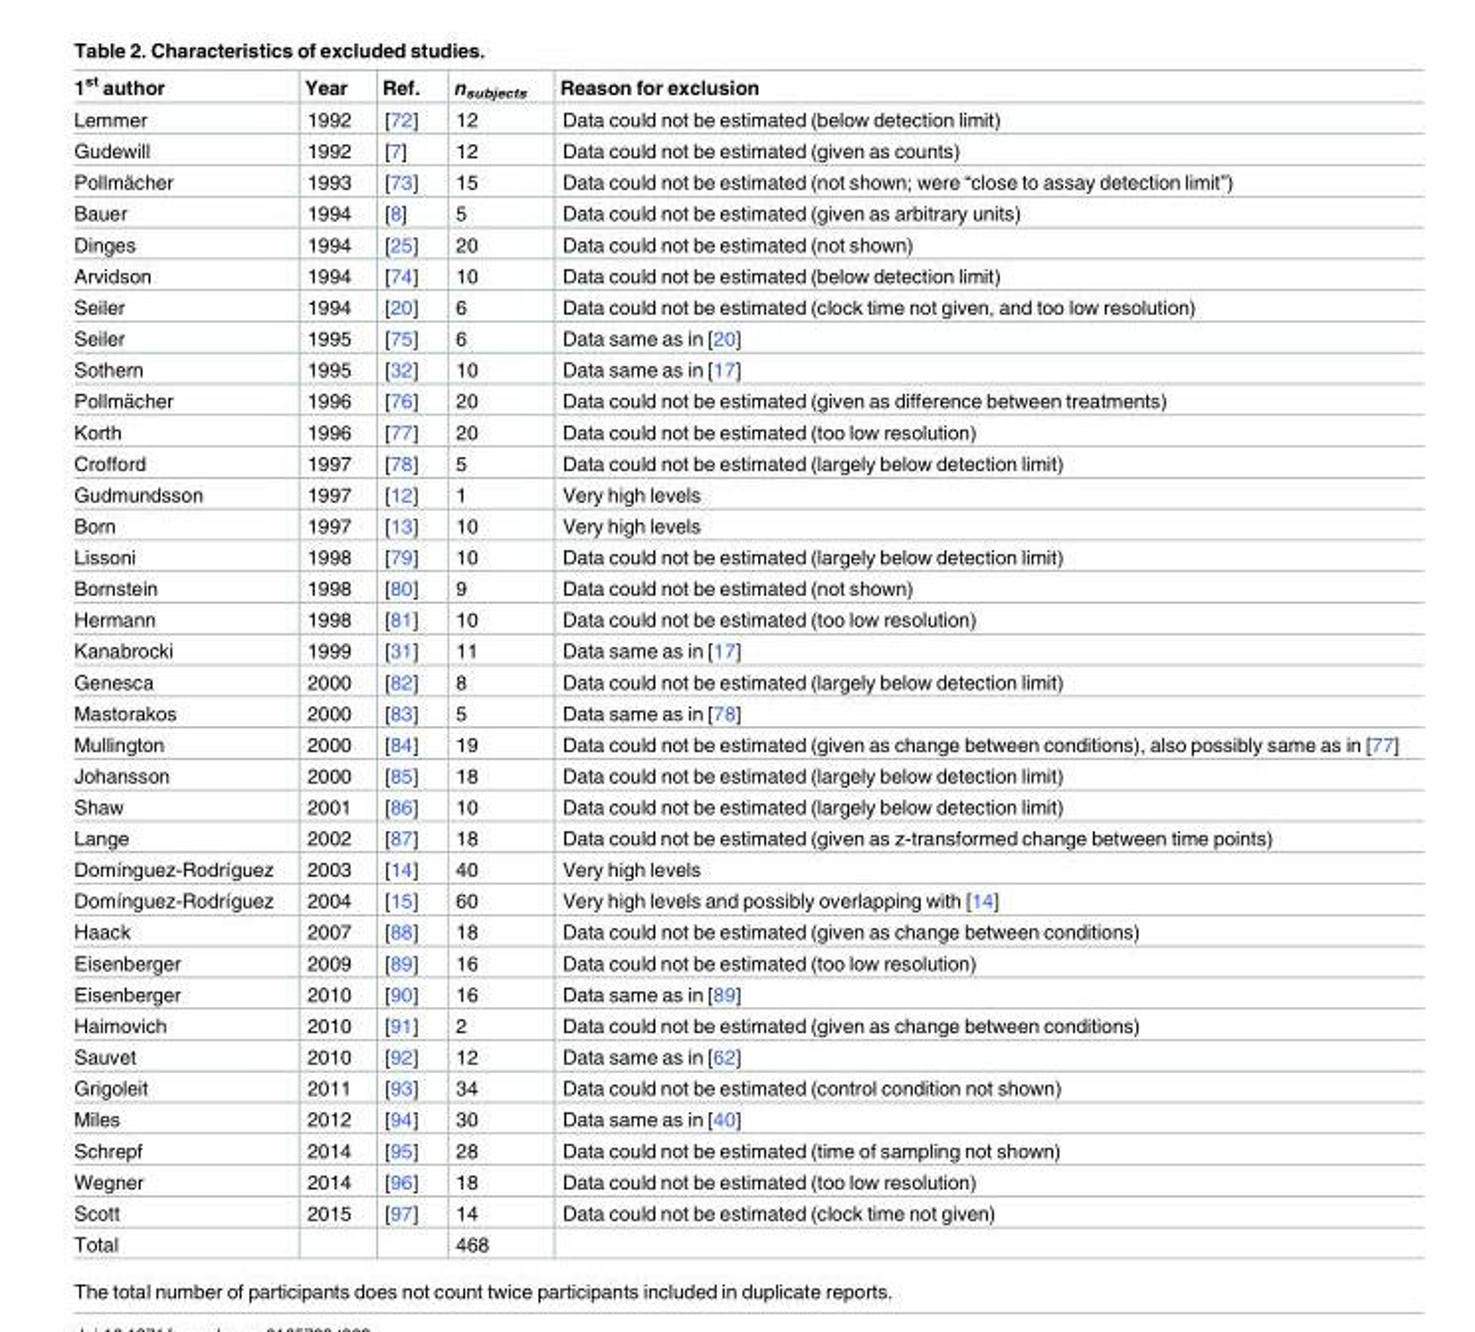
<table><thead><tr><td>1<sup>st</sup> author</td><td>Year</td><td>Ref.</td><td>n<sub>subjects</sub></td><td>Reason for exclusion</td></tr></thead><tbody><tr><td>Lemmer</td><td>1992</td><td>[72]</td><td>12</td><td>Data could not be estimated (below detection limit)</td></tr><tr><td>Gudewill</td><td>1992</td><td>[7]</td><td>12</td><td>Data could not be estimated (given as counts)</td></tr><tr><td>Pollma¨cher</td><td>1993</td><td>[73]</td><td>15</td><td>Data could not be estimated (not shown; were “close to assay detection limit”)</td></tr><tr><td>Bauer</td><td>1994</td><td>[8]</td><td>5</td><td>Data could not be estimated (given as arbitrary units)</td></tr><tr><td>Dinges</td><td>1994</td><td>[25]</td><td>20</td><td>Data could not be estimated (not shown)</td></tr><tr><td>Arvidson</td><td>1994</td><td>[74]</td><td>10</td><td>Data could not be estimated (below detection limit)</td></tr><tr><td>Seiler</td><td>1994</td><td>[20]</td><td>6</td><td>Data could not be estimated (clock time not given, and too low resolution)</td></tr><tr><td>Seiler</td><td>1995</td><td>[75]</td><td>6</td><td>Data same as in [20]</td></tr><tr><td>Sothern</td><td>1995</td><td>[32]</td><td>10</td><td>Data same as in [17]</td></tr><tr><td>Pollma¨cher</td><td>1996</td><td>[76]</td><td>20</td><td>Data could not be estimated (given as difference between treatments)</td></tr><tr><td>Korth</td><td>1996</td><td>[77]</td><td>20</td><td>Data could not be estimated (too low resolution)</td></tr><tr><td>Crofford</td><td>1997</td><td>[78]</td><td>5</td><td>Data could not be estimated (largely below detection limit)</td></tr><tr><td>Gudmundsson</td><td>1997</td><td>[12]</td><td>1</td><td>Very high levels</td></tr><tr><td>Born</td><td>1997</td><td>[13]</td><td>10</td><td>Very high levels</td></tr><tr><td>Lissoni</td><td>1998</td><td>[79]</td><td>10</td><td>Data could not be estimated (largely below detection limit)</td></tr><tr><td>Bornstein</td><td>1998</td><td>[80]</td><td>9</td><td>Data could not be estimated (not shown)</td></tr><tr><td>Hermann</td><td>1998</td><td>[81]</td><td>10</td><td>Data could not be estimated (too low resolution)</td></tr><tr><td>Kanabrocki</td><td>1999</td><td>[31]</td><td>11</td><td>Data same as in [17]</td></tr><tr><td>Genesca</td><td>2000</td><td>[82]</td><td>8</td><td>Data could not be estimated (largely below detection limit)</td></tr><tr><td>Mastorakos</td><td>2000</td><td>[83]</td><td>5</td><td>Data same as in [78]</td></tr><tr><td>Mullington</td><td>2000</td><td>[84]</td><td>19</td><td>Data could not be estimated (given as change between conditions), also possibly same as in [77]</td></tr><tr><td>Johansson</td><td>2000</td><td>[85]</td><td>18</td><td>Data could not be estimated (largely below detection limit)</td></tr><tr><td>Shaw</td><td>2001</td><td>[86]</td><td>10</td><td>Data could not be estimated (largely below detection limit)</td></tr><tr><td>Lange</td><td>2002</td><td>[87]</td><td>18</td><td>Data could not be estimated (given as z-transformed change between time points)</td></tr><tr><td>Domı´nguez-Rodrı´guez</td><td>2003</td><td>[14]</td><td>40</td><td>Very high levels</td></tr><tr><td>Domı´nguez-Rodrı´guez</td><td>2004</td><td>[15]</td><td>60</td><td>Very high levels and possibly overlapping with [14]</td></tr><tr><td>Haack</td><td>2007</td><td>[88]</td><td>18</td><td>Data could not be estimated (given as change between conditions)</td></tr><tr><td>Eisenberger</td><td>2009</td><td>[89]</td><td>16</td><td>Data could not be estimated (too low resolution)</td></tr><tr><td>Eisenberger</td><td>2010</td><td>[90]</td><td>16</td><td>Data same as in [89]</td></tr><tr><td>Haimovich</td><td>2010</td><td>[91]</td><td>2</td><td>Data could not be estimated (given as change between conditions)</td></tr><tr><td>Sauvet</td><td>2010</td><td>[92]</td><td>12</td><td>Data same as in [62]</td></tr><tr><td>Grigoleit</td><td>2011</td><td>[93]</td><td>34</td><td>Data could not be estimated (control condition not shown)</td></tr><tr><td>Miles</td><td>2012</td><td>[94]</td><td>30</td><td>Data same as in [40]</td></tr><tr><td>Schrepf</td><td>2014</td><td>[95]</td><td>28</td><td>Data could not be estimated (time of sampling not shown)</td></tr><tr><td>Wegner</td><td>2014</td><td>[96]</td><td>18</td><td>Data could not be estimated (too low resolution)</td></tr><tr><td>Scott</td><td>2015</td><td>[97]</td><td>14</td><td>Data could not be estimated (clock time not given)</td></tr><tr><td>Total</td><td></td><td></td><td>468</td><td></td></tr></tbody></table>